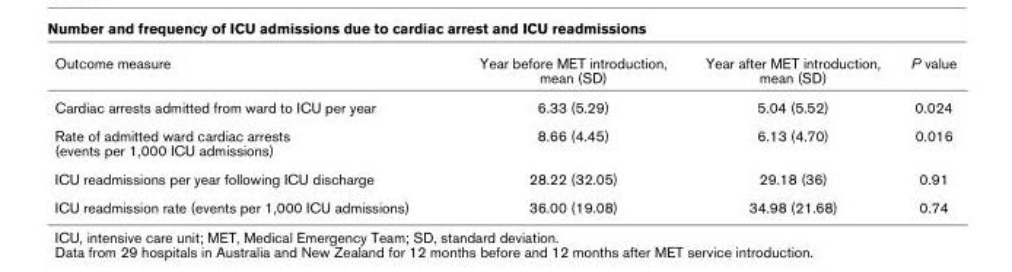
<table><thead><tr><td>Outcome measure</td><td>Year before MET introduction, mean (SD)</td><td>Year after MET introduction, mean (SD)</td><td>P value</td></tr></thead><tbody><tr><td>Cardiac arrests admitted from ward to ICU per year</td><td>6.33 (5.29)</td><td>5.04 (5.52)</td><td>0.024</td></tr><tr><td>Rate of admitted ward cardiac arrests (events per 1,000 ICU admissions)</td><td>8.66 (4.45)</td><td>6.13 (4.70)</td><td>0.016</td></tr><tr><td>ICU readmissions per year following ICU discharge</td><td>28.22 (32.05)</td><td>29.18 (36)</td><td>0.91</td></tr><tr><td>ICU readmission rate (events per 1,000 ICU admissions)</td><td>36.00 (19.08)</td><td>34.98 (21.68)</td><td>0.74</td></tr></tbody></table>